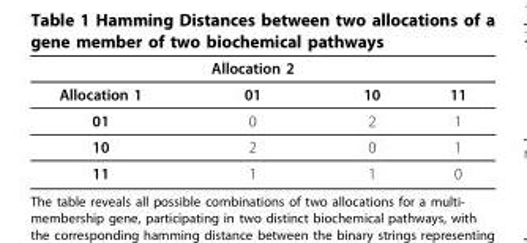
<table><thead><tr><td></td><td>Allocation 2</td><td></td><td></td></tr></thead><tbody><tr><td>Allocation 1</td><td>01</td><td>10</td><td>11</td></tr><tr><td>01</td><td>0</td><td>2</td><td>1</td></tr><tr><td>10</td><td>2</td><td>0</td><td>1</td></tr><tr><td>11</td><td>1</td><td>1</td><td>0</td></tr></tbody></table>